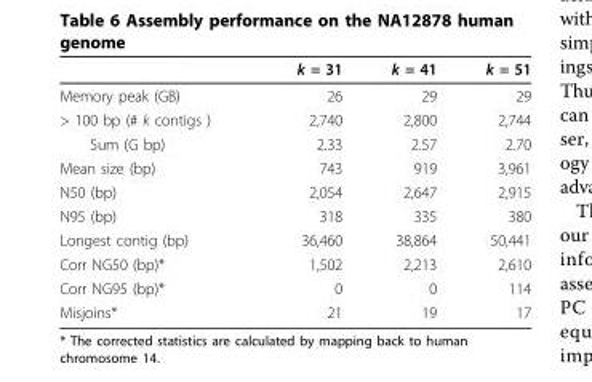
<table><thead><tr><td></td><td>k = 31</td><td>k = 41</td><td>k = 51</td></tr></thead><tbody><tr><td>Memory peak (GB)</td><td>26</td><td>29</td><td>29</td></tr><tr><td>&gt; 100 bp (# k contigs )</td><td>2,740</td><td>2,800</td><td>2,744</td></tr><tr><td>Sum (G bp)</td><td>2.33</td><td>2.57</td><td>2.70</td></tr><tr><td>Mean size (bp)</td><td>743</td><td>919</td><td>3,961</td></tr><tr><td>N50 (bp)</td><td>2,054</td><td>2,647</td><td>2,915</td></tr><tr><td>N95 (bp)</td><td>318</td><td>335</td><td>380</td></tr><tr><td>Longest contig (bp)</td><td>36,460</td><td>38,864</td><td>50,441</td></tr><tr><td>Corr NG50 (bp)*</td><td>1,502</td><td>2,213</td><td>2,610</td></tr><tr><td>Corr NG95 (bp)*</td><td>0</td><td>0</td><td>114</td></tr><tr><td>Misjoins*</td><td>21</td><td>19</td><td>17</td></tr></tbody></table>